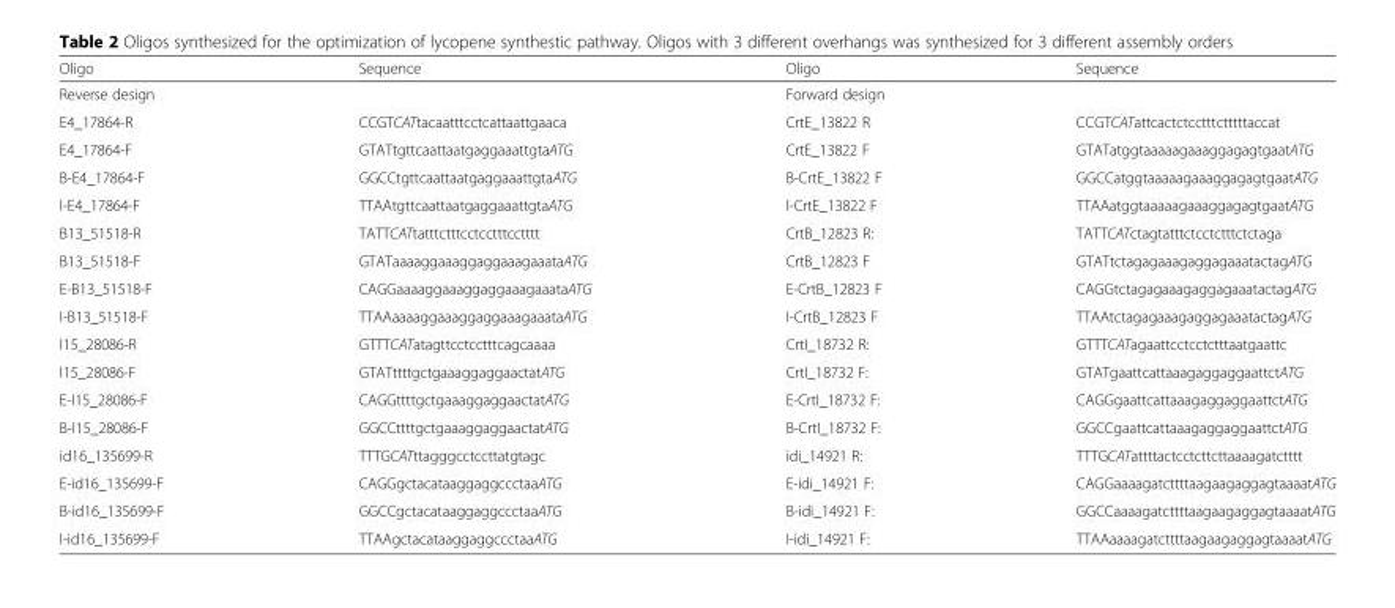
<table><thead><tr><td>Oligo</td><td>Sequence</td><td>Oligo</td><td>Sequence</td></tr></thead><tbody><tr><td colspan="2">Reverse design</td><td colspan="2">Forward design</td></tr><tr><td>E4_17864-R</td><td>CCGTCATtacaatttcctcattaattgaaca</td><td>CrtE_13822 R</td><td>CCGTCATattcactctcctttctttttaccat</td></tr><tr><td>E4_17864-F</td><td>GTATtgttcaattaatgaggaaattgtaATG</td><td>CrtE_13822 F</td><td>GTATatggtaaaaagaaaggagagtgaatATG</td></tr><tr><td>B-E4_17864-F</td><td>GGCCtgttcaattaatgaggaaattgtaATG</td><td>B-CrtE_13822 F</td><td>GGCCatggtaaaaagaaaggagagtgaatATG</td></tr><tr><td>I-E4_17864-F</td><td>TTAAtgttcaattaatgaggaaattgtaATG</td><td>I-CrtE_13822 F</td><td>TTAAatggtaaaaagaaaggagagtgaatATG</td></tr><tr><td>B13_51518-R</td><td>TATTCATtatttctttcctcctttcctttt</td><td>CrtB_12823 R:</td><td>TATTCATctagtatttctcctctttctctaga</td></tr><tr><td>B13_51518-F</td><td>GTATaaaaggaaaggaggaaagaaataATG</td><td>CrtB_12823 F</td><td>GTATtctagagaaagaggagaaatactagATG</td></tr><tr><td>E-B13_51518-F</td><td>CAGGaaaaggaaaggaggaaagaaataATG</td><td>E-CrtB_12823 F</td><td>CAGGtctagagaaagaggagaaatactagATG</td></tr><tr><td>I-B13_51518-F</td><td>TTAAaaaaggaaaggaggaaagaaataATG</td><td>I-CrtB_12823 F</td><td>TTAAtctagagaaagaggagaaatactagATG</td></tr><tr><td>I15_28086-R</td><td>GTTTCATatagttcctcctttcagcaaaa</td><td>CrtI_18732 R:</td><td>GTTTCATagaattcctcctctttaatgaattc</td></tr><tr><td>I15_28086-F</td><td>GTATttttgctgaaaggaggaactatATG</td><td>CrtI_18732 F:</td><td>GTATgaattcattaaagaggaggaattctATG</td></tr><tr><td>E-I15_28086-F</td><td>CAGGttttgctgaaaggaggaactatATG</td><td>E-CrtI_18732 F:</td><td>CAGGgaattcattaaagaggaggaattctATG</td></tr><tr><td>B-I15_28086-F</td><td>GGCCttttgctgaaaggaggaactatATG</td><td>B-CrtI_18732 F:</td><td>GGCCgaattcattaaagaggaggaattctATG</td></tr><tr><td>id16_135699-R</td><td>TTTGCATttagggcctccttatgtagc</td><td>idi_14921 R:</td><td>TTTGCATattttactcctcttcttaaaagatctttt</td></tr><tr><td>E-id16_135699-F</td><td>CAGGgctacataaggaggccctaaATG</td><td>E-idi_14921 F:</td><td>CAGGaaaagatcttttaagaagaggagtaaaatATG</td></tr><tr><td>B-id16_135699-F</td><td>GGCCgctacataaggaggccctaaATG</td><td>B-idi_14921 F:</td><td>GGCCaaaagatcttttaagaagaggagtaaaatATG</td></tr><tr><td>I-id16_135699-F</td><td>TTAAgctacataaggaggccctaaATG</td><td>I-idi_14921 F:</td><td>TTAAaaaagatcttttaagaagaggagtaaaatATG</td></tr></tbody></table>